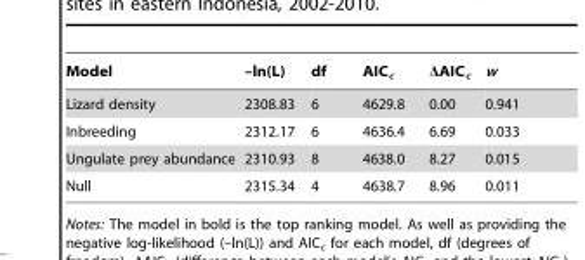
<table><thead><tr><td>Model</td><td>–ln(L)</td><td>df</td><td>AIC<sub>c</sub></td><td>ΔAIC<sub>c</sub></td><td>w</td></tr></thead><tbody><tr><td>Lizard density</td><td>2308.83</td><td>6</td><td>4629.8</td><td>0.00</td><td>0.941</td></tr><tr><td>Inbreeding</td><td>2312.17</td><td>6</td><td>4636.4</td><td>6.69</td><td>0.033</td></tr><tr><td>Ungulate prey abundance</td><td>2310.93</td><td>8</td><td>4638.0</td><td>8.27</td><td>0.015</td></tr><tr><td>Null</td><td>2315.34</td><td>4</td><td>4638.7</td><td>8.96</td><td>0.011</td></tr></tbody></table>